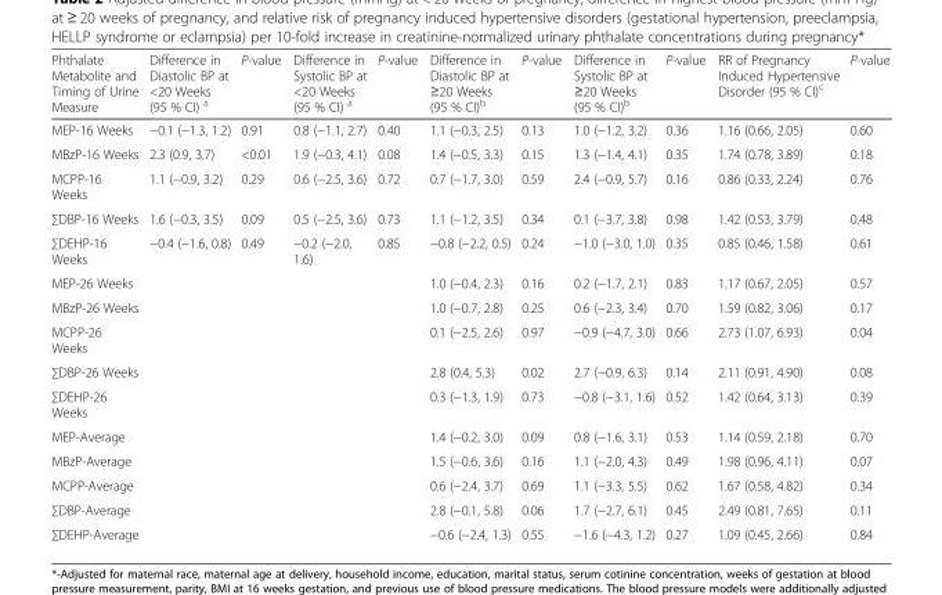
<table><thead><tr><td>Phthalate Metabolite and Timing of Urine Measure</td><td>Difference in Diastolic BP at &lt;20 Weeks (95 % CI) <sup>a</sup></td><td>P-value</td><td>Difference in Systolic BP at &lt;20 Weeks (95 % CI) <sup>a</sup></td><td>P-value</td><td>Difference in Diastolic BP at ≥20 Weeks (95 % CI)<sup>b</sup></td><td>P-value</td><td>Difference in Systolic BP at ≥20 Weeks (95 % CI)<sup>b</sup></td><td>P-value</td><td>RR of Pregnancy Induced Hypertensive Disorder (95 % CI)<sup>c</sup></td><td>P-value</td></tr></thead><tbody><tr><td>MEP-16 Weeks</td><td>−0.1 (−1.3, 1.2)</td><td>0.91</td><td>0.8 (−1.1, 2.7)</td><td>0.40</td><td>1.1 (−0.3, 2.5)</td><td>0.13</td><td>1.0 (−1.2, 3.2)</td><td>0.36</td><td>1.16 (0.66, 2.05)</td><td>0.60</td></tr><tr><td>MBzP-16 Weeks</td><td>2.3 (0.9, 3.7)</td><td>&lt;0.01</td><td>1.9 (−0.3, 4.1)</td><td>0.08</td><td>1.4 (−0.5, 3.3)</td><td>0.15</td><td>1.3 (−1.4, 4.1)</td><td>0.35</td><td>1.74 (0.78, 3.89)</td><td>0.18</td></tr><tr><td>MCPP-16 Weeks</td><td>1.1 (−0.9, 3.2)</td><td>0.29</td><td>0.6 (−2.5, 3.6)</td><td>0.72</td><td>0.7 (−1.7, 3.0)</td><td>0.59</td><td>2.4 (−0.9, 5.7)</td><td>0.16</td><td>0.86 (0.33, 2.24)</td><td>0.76</td></tr><tr><td>∑DBP-16 Weeks</td><td>1.6 (−0.3, 3.5)</td><td>0.09</td><td>0.5 (−2.5, 3.6)</td><td>0.73</td><td>1.1 (−1.2, 3.5)</td><td>0.34</td><td>0.1 (−3.7, 3.8)</td><td>0.98</td><td>1.42 (0.53, 3.79)</td><td>0.48</td></tr><tr><td>∑DEHP-16 Weeks</td><td>−0.4 (−1.6, 0.8)</td><td>0.49</td><td>−0.2 (−2.0, 1.6)</td><td>0.85</td><td>−0.8 (−2.2, 0.5)</td><td>0.24</td><td>−1.0 (−3.0, 1.0)</td><td>0.35</td><td>0.85 (0.46, 1.58)</td><td>0.61</td></tr><tr><td>MEP-26 Weeks</td><td></td><td></td><td></td><td></td><td>1.0 (−0.4, 2.3)</td><td>0.16</td><td>0.2 (−1.7, 2.1)</td><td>0.83</td><td>1.17 (0.67, 2.05)</td><td>0.57</td></tr><tr><td>MBzP-26 Weeks</td><td></td><td></td><td></td><td></td><td>1.0 (−0.7, 2.8)</td><td>0.25</td><td>0.6 (−2.3, 3.4)</td><td>0.70</td><td>1.59 (0.82, 3.06)</td><td>0.17</td></tr><tr><td>MCPP-26 Weeks</td><td></td><td></td><td></td><td></td><td>0.1 (−2.5, 2.6)</td><td>0.97</td><td>−0.9 (−4.7, 3.0)</td><td>0.66</td><td>2.73 (1.07, 6.93)</td><td>0.04</td></tr><tr><td>∑DBP-26 Weeks</td><td></td><td></td><td></td><td></td><td>2.8 (0.4, 5.3)</td><td>0.02</td><td>2.7 (−0.9, 6.3)</td><td>0.14</td><td>2.11 (0.91, 4.90)</td><td>0.08</td></tr><tr><td>∑DEHP-26 Weeks</td><td></td><td></td><td></td><td></td><td>0.3 (−1.3, 1.9)</td><td>0.73</td><td>−0.8 (−3.1, 1.6)</td><td>0.52</td><td>1.42 (0.64, 3.13)</td><td>0.39</td></tr><tr><td>MEP-Average</td><td></td><td></td><td></td><td></td><td>1.4 (−0.2, 3.0)</td><td>0.09</td><td>0.8 (−1.6, 3.1)</td><td>0.53</td><td>1.14 (0.59, 2.18)</td><td>0.70</td></tr><tr><td>MBzP-Average</td><td></td><td></td><td></td><td></td><td>1.5 (−0.6, 3.6)</td><td>0.16</td><td>1.1 (−2.0, 4.3)</td><td>0.49</td><td>1.98 (0.96, 4.11)</td><td>0.07</td></tr><tr><td>MCPP-Average</td><td></td><td></td><td></td><td></td><td>0.6 (−2.4, 3.7)</td><td>0.69</td><td>1.1 (−3.3, 5.5)</td><td>0.62</td><td>1.67 (0.58, 4.82)</td><td>0.34</td></tr><tr><td>∑DBP-Average</td><td></td><td></td><td></td><td></td><td>2.8 (−0.1, 5.8)</td><td>0.06</td><td>1.7 (−2.7, 6.1)</td><td>0.45</td><td>2.49 (0.81, 7.65)</td><td>0.11</td></tr><tr><td>∑DEHP-Average</td><td></td><td></td><td></td><td></td><td>−0.6 (−2.4, 1.3)</td><td>0.55</td><td>−1.6 (−4.3, 1.2)</td><td>0.27</td><td>1.09 (0.45, 2.66)</td><td>0.84</td></tr></tbody></table>